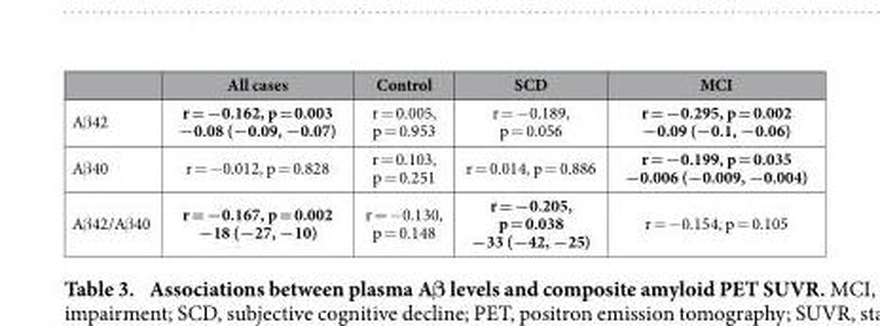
<table><thead><tr><td></td><td>All cases</td><td>Control</td><td>SCD</td><td>MCI</td></tr></thead><tbody><tr><td>Aβ 42</td><td>r = −0.162, p = 0.003 −0.08 (−0.09, −0.07)</td><td>r = 0.005, p = 0.953</td><td>r = − 0.189, p = 0.056</td><td>r = −0.295, p = 0.002 −0.09 (−0.1, −0.06)</td></tr><tr><td>Aβ 40</td><td>r = − 0.012, p = 0.828</td><td>r = 0.103, p = 0.251</td><td>r = 0.014, p = 0.886</td><td>r = −0.199, p = 0.035 −0.006 (−0.009, −0.004)</td></tr><tr><td>Aβ 42/Aβ 40</td><td>r = −0.167, p = 0.002 −18 (−27, −10)</td><td>r = − 0.130, p = 0.148</td><td>r = −0.205, p = 0.038 −33 (−42, −25)</td><td>r = − 0.154, p = 0.105</td></tr></tbody></table>